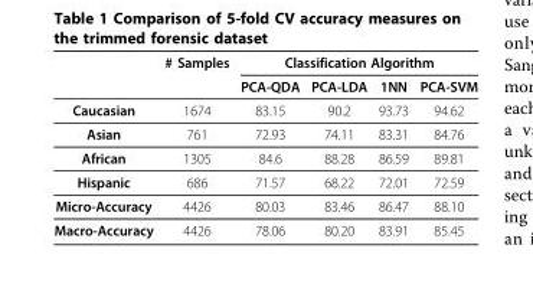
<table><thead><tr><td rowspan="2"></td><td rowspan="2"># Samples</td><td colspan="4">Classification Algorithm</td></tr><tr><td>PCA-QDA</td><td>PCA-LDA</td><td>1NN</td><td>PCA-SVM</td></tr></thead><tbody><tr><td>Caucasian</td><td>1674</td><td>83.15</td><td>90.2</td><td>93.73</td><td>94.62</td></tr><tr><td>Asian</td><td>761</td><td>72.93</td><td>74.11</td><td>83.31</td><td>84.76</td></tr><tr><td>African</td><td>1305</td><td>84.6</td><td>88.28</td><td>86.59</td><td>89.81</td></tr><tr><td>Hispanic</td><td>686</td><td>71.57</td><td>68.22</td><td>72.01</td><td>72.59</td></tr><tr><td>Micro-Accuracy</td><td>4426</td><td>80.03</td><td>83.46</td><td>86.47</td><td>88.10</td></tr><tr><td>Macro-Accuracy</td><td>4426</td><td>78.06</td><td>80.20</td><td>83.91</td><td>85.45</td></tr></tbody></table>